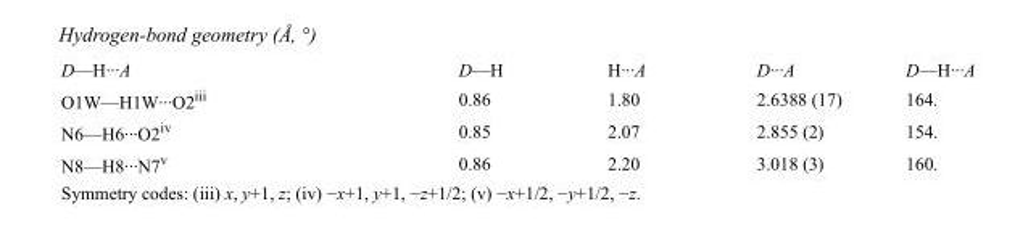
<table><tbody><tr><td>D—H···A</td><td>D—H</td><td>H···A</td><td>D···A</td><td>D—H···A</td></tr><tr><td>O1W—H1W···O2<sup>iii</sup></td><td>0.86</td><td>1.80</td><td>2.6388 (17)</td><td>164.</td></tr><tr><td>N6—H6···O2<sup>iv</sup></td><td>0.85</td><td>2.07</td><td>2.855 (2)</td><td>154.</td></tr><tr><td>N8—H8···N7<sup>v</sup></td><td>0.86</td><td>2.20</td><td>3.018 (3)</td><td>160.</td></tr></tbody></table>